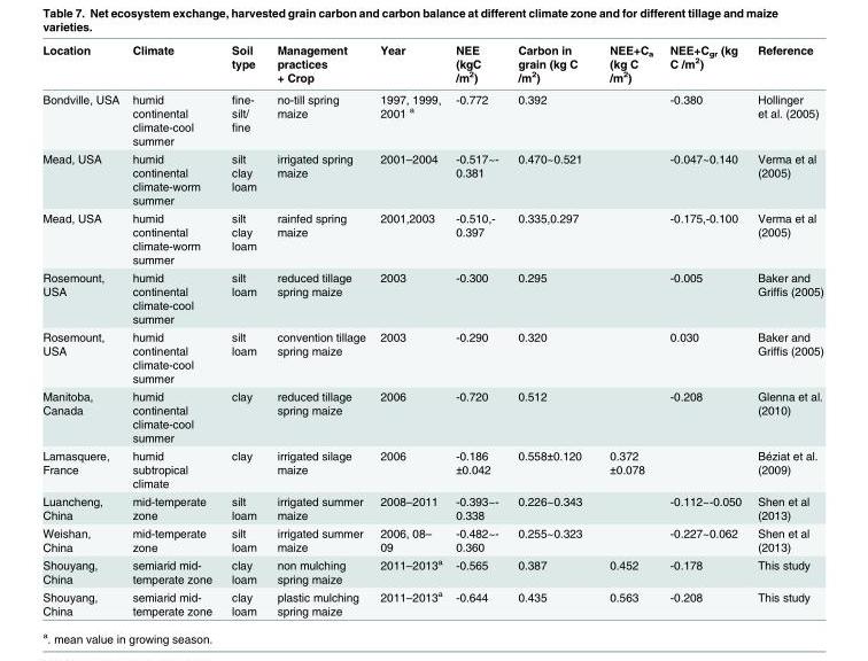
<table><thead><tr><td>Location</td><td>Climate</td><td>Soil type</td><td>Management practices + Crop</td><td>Year</td><td>NEE (kgC /m<sup>2</sup>)</td><td>Carbon in grain (kg C /m<sup>2</sup>)</td><td>NEE+C<sub>a</sub> (kg C /m<sup>2</sup>)</td><td>NEE+C<sub>gr</sub> (kg C /m<sup>2</sup>)</td><td>Reference</td></tr></thead><tbody><tr><td>Bondville, USA</td><td>humid continental climate-cool summer</td><td>fine- silt/ fine</td><td>no-till spring maize</td><td>1997, 1999, 2001 <sup>a</sup></td><td>-0.772</td><td>0.392</td><td></td><td>-0.380</td><td>Hollinger et al. (2005)</td></tr><tr><td>Mead, USA</td><td>humid continental climate-worm summer</td><td>silt clay loam</td><td>irrigated spring maize</td><td>2001–2004</td><td>-0.517~- 0.381</td><td>0.470~0.521</td><td></td><td>-0.047~0.140</td><td>Verma et al (2005)</td></tr><tr><td>Mead, USA</td><td>humid continental climate-worm summer</td><td>silt clay loam</td><td>rainfed spring maize</td><td>2001,2003</td><td>-0.510,- 0.397</td><td>0.335,0.297</td><td></td><td>-0.175,-0.100</td><td>Verma et al (2005)</td></tr><tr><td>Rosemount, USA</td><td>humid continental climate-cool summer</td><td>silt loam</td><td>reduced tillage spring maize</td><td>2003</td><td>-0.300</td><td>0.295</td><td></td><td>-0.005</td><td>Baker and Griffis (2005)</td></tr><tr><td>Rosemount, USA</td><td>humid continental climate-cool summer</td><td>silt loam</td><td>convention tillage spring maize</td><td>2003</td><td>-0.290</td><td>0.320</td><td></td><td>0.030</td><td>Baker and Griffis (2005)</td></tr><tr><td>Manitoba, Canada</td><td>humid continental climate-cool summer</td><td>clay</td><td>reduced tillage spring maize</td><td>2006</td><td>-0.720</td><td>0.512</td><td></td><td>-0.208</td><td>Glenna et al. (2010)</td></tr><tr><td>Lamasquere, France</td><td>humid subtropical climate</td><td>clay</td><td>irrigated silage maize</td><td>2006</td><td>-0.186 ±0.042</td><td>0.558±0.120</td><td>0.372 ±0.078</td><td></td><td>Béziat et al. (2009)</td></tr><tr><td>Luancheng, China</td><td>mid-temperate zone</td><td>silt loam</td><td>irrigated summer maize</td><td>2008–2011</td><td>-0.393~- 0.338</td><td>0.226~0.343</td><td></td><td>-0.112~-0.050</td><td>Shen et al (2013)</td></tr><tr><td>Weishan, China</td><td>mid-temperate zone</td><td>silt loam</td><td>irrigated summer maize</td><td>2006, 08– 09</td><td>-0.482~- 0.360</td><td>0.255~0.323</td><td></td><td>-0.227~0.062</td><td>Shen et al (2013)</td></tr><tr><td>Shouyang, China</td><td>semiarid mid- temperate zone</td><td>clay loam</td><td>non mulching spring maize</td><td>2011–2013<sup>a</sup></td><td>-0.565</td><td>0.387</td><td>0.452</td><td>-0.178</td><td>This study</td></tr><tr><td>Shouyang, China</td><td>semiarid mid- temperate zone</td><td>clay loam</td><td>plastic mulching spring maize</td><td>2011–2013<sup>a</sup></td><td>-0.644</td><td>0.435</td><td>0.563</td><td>-0.208</td><td>This study</td></tr></tbody></table>